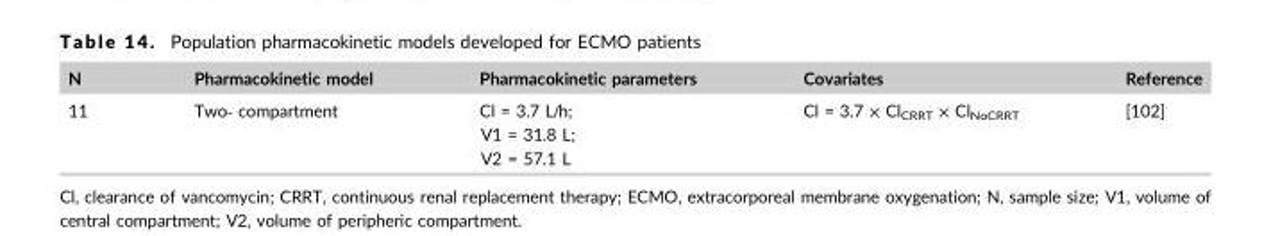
<table><thead><tr><td>N</td><td>Pharmacokinetic model</td><td>Pharmacokinetic parameters</td><td>Covariates</td><td>Reference</td></tr></thead><tbody><tr><td>11</td><td>Two‐ compartment</td><td>Cl = 3.7 L/h; V1 = 31.8 L; V2 = 57.1 L</td><td>Cl = 3.7 × Cl<sub>CRRT</sub> × Cl<sub>NoCRRT</sub></td><td>[102]</td></tr></tbody></table>